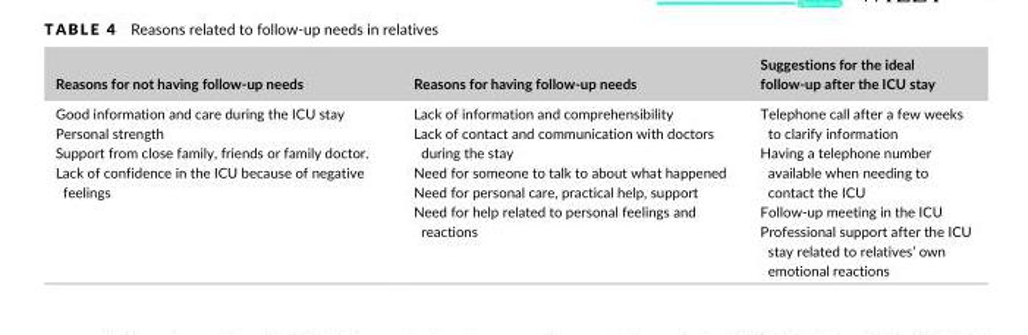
<table><thead><tr><td>Reasons for not having follow- up needs</td><td>Reasons for having follow-up needs</td><td>Suggestions for the ideal follow- up after the ICU stay</td></tr></thead><tbody><tr><td>Good information and care during the ICU stay Personal strength Support from close family, friends or family doctor. Lack of confidence in the ICU because of negative feelings</td><td>Lack of information and comprehensibility Lack of contact and communication with doctors during the stay Need for someone to talk to about what happened Need for personal care, practical help, support Need for help related to personal feelings and reactions</td><td>Telephone call after a few weeks to clarify information Having a telephone number available when needing to contact the ICU Follow- up meeting in the ICU Professional support after the ICU stay related to relatives’ own emotional reactions</td></tr></tbody></table>